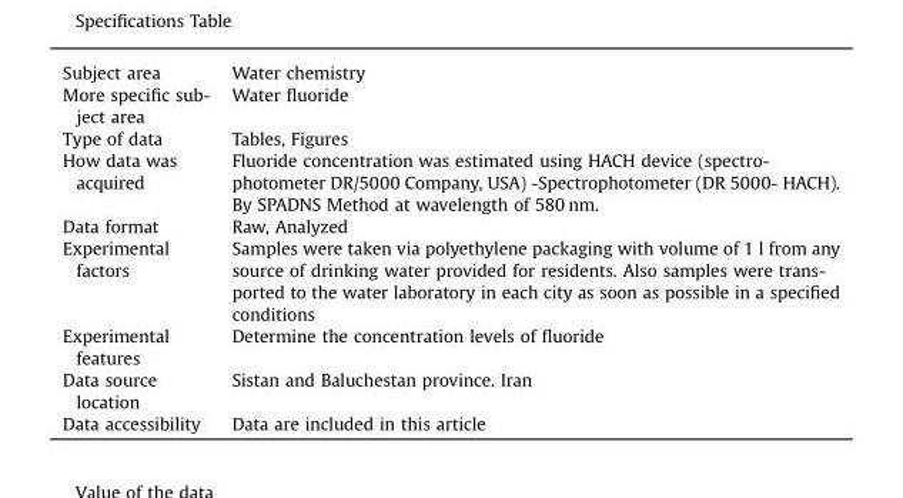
<table><tbody><tr><td>Subject area</td><td>Water chemistry</td></tr><tr><td>More specific sub- ject area</td><td>Water fluoride</td></tr><tr><td>Type of data</td><td>Tables, Figures</td></tr><tr><td>How data was acquired</td><td>Fluoride concentration was estimated using HACH device (spectro- photometer DR/5000 Company, USA) -Spectrophotometer (DR 5000- HACH). By SPADNS Method at wavelength of 580 nm.</td></tr><tr><td>Data format</td><td>Raw, Analyzed</td></tr><tr><td>Experimental factors</td><td>Samples were taken via polyethylene packaging with volume of 1 l from any source of drinking water provided for residents. Also samples were trans- ported to the water laboratory in each city as soon as possible in a specified conditions</td></tr><tr><td>Experimental features</td><td>Determine the concentration levels of fluoride</td></tr><tr><td>Data source location</td><td>Sistan and Baluchestan province. Iran</td></tr><tr><td>Data accessibility</td><td>Data are included in this article</td></tr></tbody></table>